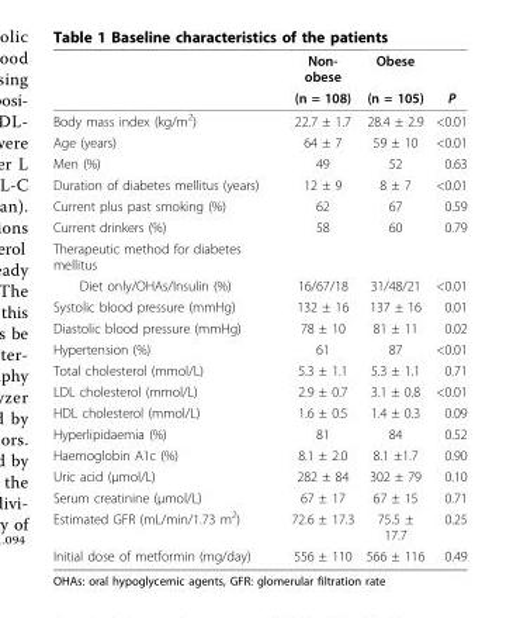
<table><thead><tr><td rowspan="2"></td><td rowspan="2">Non- obese (n = 108)</td><td rowspan="2">Obese (n = 105)</td><td rowspan="2">P</td></tr><tr></tr></thead><tbody><tr><td>Body mass index (kg/m<sup>2</sup>)</td><td>22.7 ± 1.7</td><td>28.4 ± 2.9</td><td>&lt;0.01</td></tr><tr><td>Age (years)</td><td>64 ± 7</td><td>59 ± 10</td><td>&lt;0.01</td></tr><tr><td>Men (%)</td><td>49</td><td>52</td><td>0.63</td></tr><tr><td>Duration of diabetes mellitus (years)</td><td>12 ± 9</td><td>8 ± 7</td><td>&lt;0.01</td></tr><tr><td>Current plus past smoking (%)</td><td>62</td><td>67</td><td>0.59</td></tr><tr><td>Current drinkers (%)</td><td>58</td><td>60</td><td>0.79</td></tr><tr><td colspan="4">Therapeutic method for diabetes mellitus</td></tr><tr><td>Diet only/OHAs/Insulin (%)</td><td>16/67/18</td><td>31/48/21</td><td>&lt;0.01</td></tr><tr><td>Systolic blood pressure (mmHg)</td><td>132 ± 16</td><td>137 ± 16</td><td>0.01</td></tr><tr><td>Diastolic blood pressure (mmHg)</td><td>78 ± 10</td><td>81 ± 11</td><td>0.02</td></tr><tr><td>Hypertension (%)</td><td>61</td><td>87</td><td>&lt;0.01</td></tr><tr><td>Total cholesterol (mmol/L)</td><td>5.3 ± 1.1</td><td>5.3 ± 1.1</td><td>0.71</td></tr><tr><td>LDL cholesterol (mmol/L)</td><td>2.9 ± 0.7</td><td>3.1 ± 0.8</td><td>&lt;0.01</td></tr><tr><td>HDL cholesterol (mmol/L)</td><td>1.6 ± 0.5</td><td>1.4 ± 0.3</td><td>0.09</td></tr><tr><td>Hyperlipidaemia (%)</td><td>81</td><td>84</td><td>0.52</td></tr><tr><td>Haemoglobin A1c (%)</td><td>8.1 ± 2.0</td><td>8.1 ±1.7</td><td>0.90</td></tr><tr><td>Uric acid (μmol/L)</td><td>282 ± 84</td><td>302 ± 79</td><td>0.10</td></tr><tr><td>Serum creatinine (μmol/L)</td><td>67 ± 17</td><td>67 ± 15</td><td>0.71</td></tr><tr><td>Estimated GFR (mL/min/1.73 m<sup>2</sup>)</td><td>72.6 ± 17.3</td><td>75.5 ± 17.7</td><td>0.25</td></tr><tr><td>Initial dose of metformin (mg/day)</td><td>556 ± 110</td><td>566 ± 116</td><td>0.49</td></tr></tbody></table>